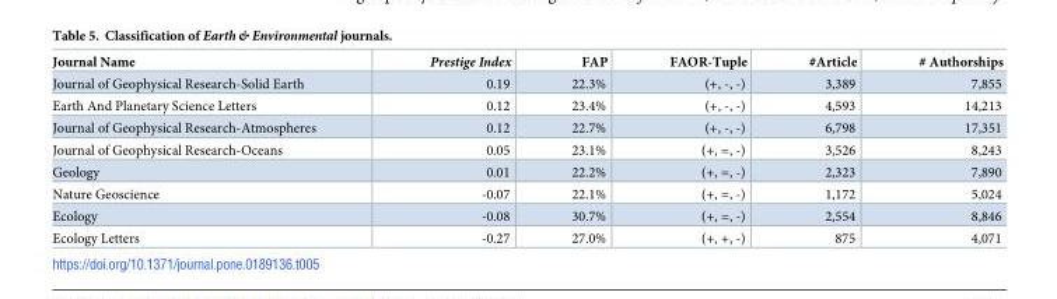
<table><thead><tr><td>Journal Name</td><td>Prestige Index</td><td>FAP</td><td>FAOR-Tuple</td><td>#Article</td><td># Authorships</td></tr></thead><tbody><tr><td>Journal of Geophysical Research-Solid Earth</td><td>0.19</td><td>22.3%</td><td>(+, -, -)</td><td>3,389</td><td>7,855</td></tr><tr><td>Earth And Planetary Science Letters</td><td>0.12</td><td>23.4%</td><td>(+, -, -)</td><td>4,593</td><td>14,213</td></tr><tr><td>Journal of Geophysical Research-Atmospheres</td><td>0.12</td><td>22.7%</td><td>(+, -, -)</td><td>6,798</td><td>17,351</td></tr><tr><td>Journal of Geophysical Research-Oceans</td><td>0.05</td><td>23.1%</td><td>(+, =, -)</td><td>3,526</td><td>8,243</td></tr><tr><td>Geology</td><td>0.01</td><td>22.2%</td><td>(+, =, -)</td><td>2,323</td><td>7,890</td></tr><tr><td>Nature Geoscience</td><td>-0.07</td><td>22.1%</td><td>(+, =, -)</td><td>1,172</td><td>5,024</td></tr><tr><td>Ecology</td><td>-0.08</td><td>30.7%</td><td>(+, =, -)</td><td>2,554</td><td>8,846</td></tr><tr><td>Ecology Letters</td><td>-0.27</td><td>27.0%</td><td>(+, +, -)</td><td>875</td><td>4,071</td></tr></tbody></table>